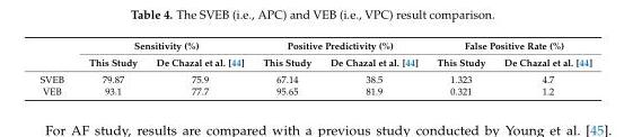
<table><thead><tr><td rowspan="2"></td><td colspan="2">Sensitivity (%)</td><td colspan="2">Positive Predictivity (%)</td><td colspan="2">False Positive Rate (%)</td></tr><tr><td>This Study</td><td>De Chazal et al. [44]</td><td>This Study</td><td>De Chazal et al. [44]</td><td>This Study</td><td>De Chazal et al. [44]</td></tr></thead><tbody><tr><td>SVEB</td><td>79.87</td><td>75.9</td><td>67.14</td><td>38.5</td><td>1.323</td><td>4.7</td></tr><tr><td>VEB</td><td>93.1</td><td>77.7</td><td>95.65</td><td>81.9</td><td>0.321</td><td>1.2</td></tr></tbody></table>